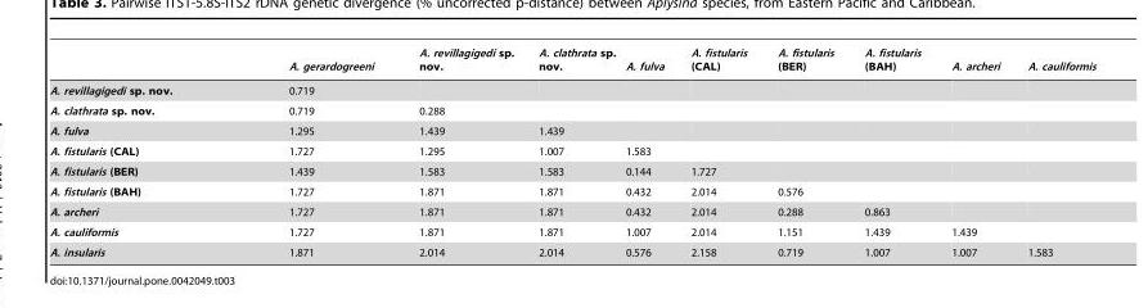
<table><thead><tr><td></td><td>A. gerardogreeni</td><td>A. revillagigedi sp. nov.</td><td>A. clathrata sp. nov.</td><td>A. fulva</td><td>A. fistularis (CAL)</td><td>A. fistularis (BER)</td><td>A. fistularis (BAH)</td><td>A. archeri</td><td>A. cauliformis</td></tr></thead><tbody><tr><td>A. revillagigedi sp. nov.</td><td>0.719</td><td></td><td></td><td></td><td></td><td></td><td></td><td></td><td></td></tr><tr><td>A. clathrata sp. nov.</td><td>0.719</td><td>0.288</td><td></td><td></td><td></td><td></td><td></td><td></td><td></td></tr><tr><td>A. fulva</td><td>1.295</td><td>1.439</td><td>1.439</td><td></td><td></td><td></td><td></td><td></td><td></td></tr><tr><td>A. fistularis (CAL)</td><td>1.727</td><td>1.295</td><td>1.007</td><td>1.583</td><td></td><td></td><td></td><td></td><td></td></tr><tr><td>A. fistularis (BER)</td><td>1.439</td><td>1.583</td><td>1.583</td><td>0.144</td><td>1.727</td><td></td><td></td><td></td><td></td></tr><tr><td>A. fistularis (BAH)</td><td>1.727</td><td>1.871</td><td>1.871</td><td>0.432</td><td>2.014</td><td>0.576</td><td></td><td></td><td></td></tr><tr><td>A. archeri</td><td>1.727</td><td>1.871</td><td>1.871</td><td>0.432</td><td>2.014</td><td>0.288</td><td>0.863</td><td></td><td></td></tr><tr><td>A. cauliformis</td><td>1.727</td><td>1.871</td><td>1.871</td><td>1.007</td><td>2.014</td><td>1.151</td><td>1.439</td><td>1.439</td><td></td></tr><tr><td>A. insularis</td><td>1.871</td><td>2.014</td><td>2.014</td><td>0.576</td><td>2.158</td><td>0.719</td><td>1.007</td><td>1.007</td><td>1.583</td></tr></tbody></table>